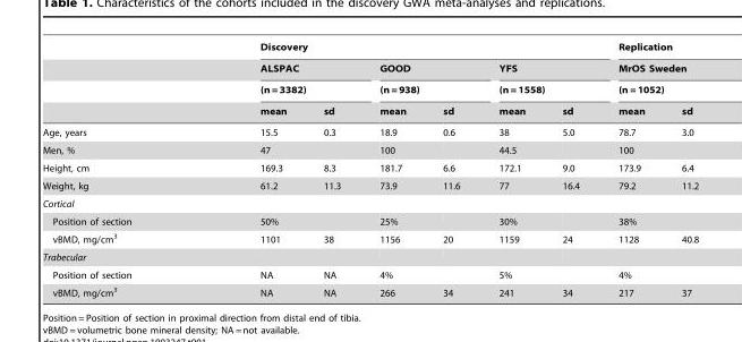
<table><thead><tr><td rowspan="4"></td><td colspan="6">Discovery</td><td rowspan="3" colspan="2">Replication MrOS Sweden (n = 1052)</td></tr><tr><td rowspan="2" colspan="2">ALSPAC (n = 3382)</td><td rowspan="2" colspan="2">GOOD (n = 938)</td><td rowspan="2" colspan="2">YFS (n = 1558)</td></tr><tr></tr><tr><td>mean</td><td>sd</td><td>mean</td><td>sd</td><td>mean</td><td>sd</td><td>mean</td><td>sd</td></tr></thead><tbody><tr><td>Age, years</td><td>15.5</td><td>0.3</td><td>18.9</td><td>0.6</td><td>38</td><td>5.0</td><td>78.7</td><td>3.0</td></tr><tr><td>Men, %</td><td>47</td><td></td><td>100</td><td></td><td>44.5</td><td></td><td>100</td><td></td></tr><tr><td>Height, cm</td><td>169.3</td><td>8.3</td><td>181.7</td><td>6.6</td><td>172.1</td><td>9.0</td><td>173.9</td><td>6.4</td></tr><tr><td>Weight, kg</td><td>61.2</td><td>11.3</td><td>73.9</td><td>11.6</td><td>77</td><td>16.4</td><td>79.2</td><td>11.2</td></tr><tr><td colspan="9">Cortical</td></tr><tr><td>Position of section</td><td>50%</td><td></td><td>25%</td><td></td><td>30%</td><td></td><td>38%</td><td></td></tr><tr><td>vBMD, mg/cm<sup>3</sup></td><td>1101</td><td>38</td><td>1156</td><td>20</td><td>1159</td><td>24</td><td>1128</td><td>40.8</td></tr><tr><td colspan="9">Trabecular</td></tr><tr><td>Position of section</td><td>NA</td><td>NA</td><td>4%</td><td></td><td>5%</td><td></td><td>4%</td><td></td></tr><tr><td>vBMD, mg/cm<sup>3</sup></td><td>NA</td><td>NA</td><td>266</td><td>34</td><td>241</td><td>34</td><td>217</td><td>37</td></tr></tbody></table>